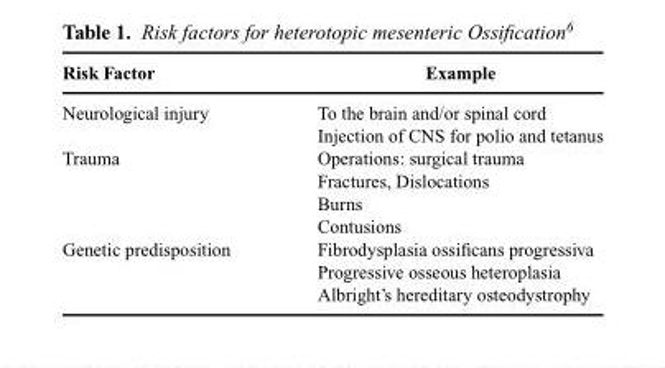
<table><thead><tr><td>Risk Factor</td><td>Example</td></tr></thead><tbody><tr><td rowspan="2">Neurological injury</td><td>To the brain and/or spinal cord</td></tr><tr><td>Injection of CNS for polio and tetanus</td></tr><tr><td rowspan="4">Trauma</td><td>Operations: surgical trauma</td></tr><tr><td>Fractures, Dislocations</td></tr><tr><td>Burns</td></tr><tr><td>Contusions</td></tr><tr><td rowspan="3">Genetic predisposition</td><td>Fibrodysplasia ossificans progressiva</td></tr><tr><td>Progressive osseous heteroplasia</td></tr><tr><td>Albright’s hereditary osteodystrophy</td></tr></tbody></table>